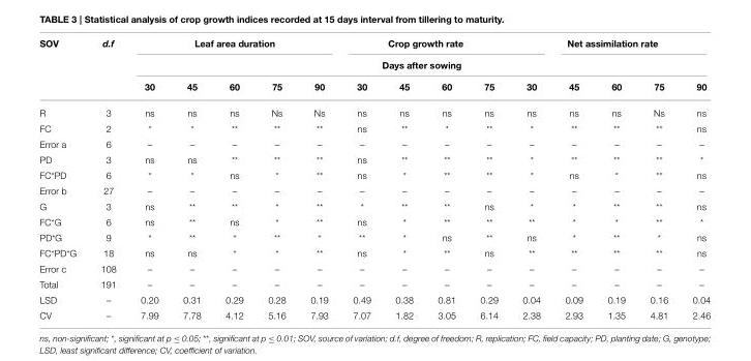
<table><thead><tr><td rowspan="3">SOV</td><td rowspan="3">d.f</td><td colspan="5">Leaf area duration</td><td colspan="4">Crop growth rate</td><td colspan="5">Net assimilation rate</td></tr><tr><td colspan="14">Days after sowing</td></tr><tr><td>30</td><td>45</td><td>60</td><td>75</td><td>90</td><td>30</td><td>45</td><td>60</td><td>75</td><td>30</td><td>45</td><td>60</td><td>75</td><td>90</td></tr></thead><tbody><tr><td>R</td><td>3</td><td>ns</td><td>ns</td><td>ns</td><td>Ns</td><td>Ns</td><td>ns</td><td>ns</td><td>ns</td><td>ns</td><td>ns</td><td>ns</td><td>ns</td><td>Ns</td><td>ns</td></tr><tr><td>FC</td><td>2</td><td>*</td><td>*</td><td>**</td><td>**</td><td>**</td><td>ns</td><td>**</td><td>*</td><td>**</td><td>*</td><td>**</td><td>**</td><td>**</td><td>ns</td></tr><tr><td>Error a</td><td>6</td><td>–</td><td>–</td><td>–</td><td>–</td><td>–</td><td>–</td><td>–</td><td>–</td><td>–</td><td>–</td><td>–</td><td>–</td><td>–</td><td>–</td></tr><tr><td>PD</td><td>3</td><td>ns</td><td>ns</td><td>**</td><td>**</td><td>**</td><td>ns</td><td>**</td><td>**</td><td>**</td><td>*</td><td>**</td><td>**</td><td>**</td><td>*</td></tr><tr><td>FC*PD</td><td>6</td><td>*</td><td>*</td><td>ns</td><td>*</td><td>**</td><td>ns</td><td>*</td><td>**</td><td>**</td><td>*</td><td>ns</td><td>*</td><td>**</td><td>ns</td></tr><tr><td>Error b</td><td>27</td><td>–</td><td>–</td><td>–</td><td>–</td><td>–</td><td>–</td><td>–</td><td>–</td><td>–</td><td>–</td><td>–</td><td>–</td><td>–</td><td>–</td></tr><tr><td>G</td><td>3</td><td>ns</td><td>**</td><td>**</td><td>*</td><td>**</td><td>*</td><td>**</td><td>**</td><td>ns</td><td>*</td><td>*</td><td>**</td><td>**</td><td>ns</td></tr><tr><td>FC*G</td><td>6</td><td>ns</td><td>**</td><td>ns</td><td>*</td><td>**</td><td>ns</td><td>*</td><td>**</td><td>**</td><td>**</td><td>*</td><td>*</td><td>**</td><td>*</td></tr><tr><td>PD*G</td><td>9</td><td>*</td><td>**</td><td>*</td><td>**</td><td>*</td><td>**</td><td>*</td><td>ns</td><td>**</td><td>ns</td><td>*</td><td>**</td><td>*</td><td>ns</td></tr><tr><td>FC*PD*G</td><td>18</td><td>ns</td><td>ns</td><td>*</td><td>*</td><td>**</td><td>ns</td><td>*</td><td>**</td><td>ns</td><td>**</td><td>**</td><td>**</td><td>**</td><td>ns</td></tr><tr><td>Error c</td><td>108</td><td>–</td><td>–</td><td>–</td><td>–</td><td>–</td><td>–</td><td>–</td><td>–</td><td>–</td><td>–</td><td>–</td><td>–</td><td>–</td><td>–</td></tr><tr><td>Total</td><td>191</td><td>–</td><td>–</td><td>–</td><td>–</td><td>–</td><td>–</td><td>–</td><td>–</td><td>–</td><td>–</td><td>–</td><td>–</td><td>–</td><td>–</td></tr><tr><td>LSD</td><td>–</td><td>0.20</td><td>0.31</td><td>0.29</td><td>0.28</td><td>0.19</td><td>0.49</td><td>0.38</td><td>0.81</td><td>0.29</td><td>0.04</td><td>0.09</td><td>0.19</td><td>0.16</td><td>0.04</td></tr><tr><td>CV</td><td>–</td><td>7.99</td><td>7.78</td><td>4.12</td><td>5.16</td><td>7.93</td><td>7.07</td><td>1.82</td><td>3.05</td><td>6.14</td><td>2.38</td><td>2.93</td><td>1.35</td><td>4.81</td><td>2.46</td></tr></tbody></table>